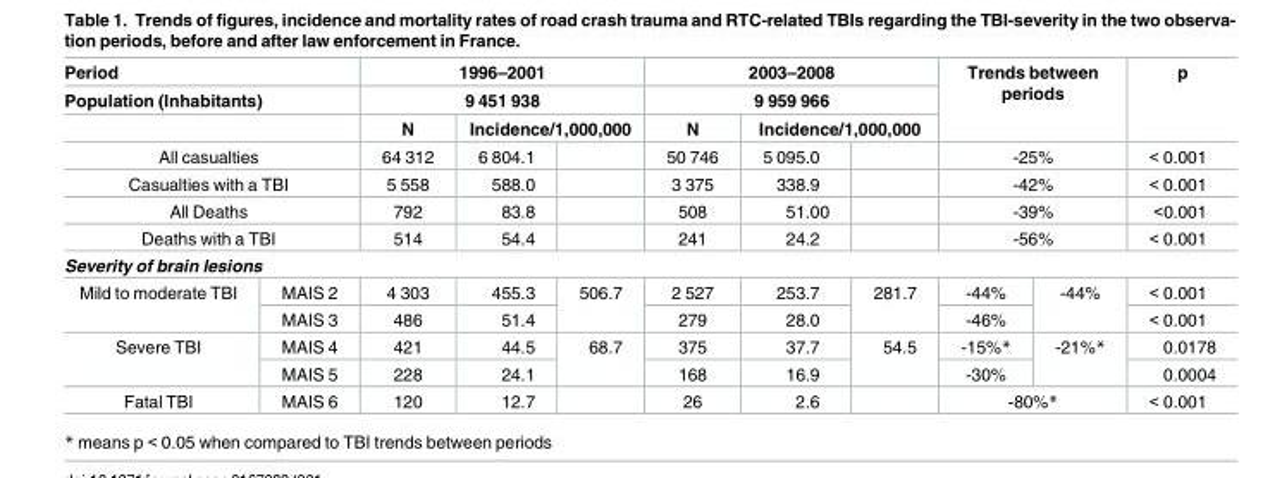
<table><thead><tr><td rowspan="2" colspan="2">Period Population (Inhabitants)</td><td rowspan="2" colspan="3">1996–2001 9 451 938</td><td rowspan="2" colspan="3">2003–2008 9 959 966</td><td rowspan="3" colspan="2">Trends between periods</td><td rowspan="3">p</td></tr><tr></tr><tr><td></td><td></td><td>N</td><td colspan="2">Incidence/1,000,000</td><td>N</td><td colspan="2">Incidence/1,000,000</td></tr></thead><tbody><tr><td colspan="2">All casualties</td><td>64 312</td><td>6 804.1</td><td></td><td>50 746</td><td>5 095.0</td><td></td><td colspan="2">-25%</td><td>&lt; 0.001</td></tr><tr><td colspan="2">Casualties with a TBI</td><td>5 558</td><td>588.0</td><td></td><td>3 375</td><td>338.9</td><td></td><td colspan="2">-42%</td><td>&lt; 0.001</td></tr><tr><td colspan="2">All Deaths</td><td>792</td><td>83.8</td><td></td><td>508</td><td>51.00</td><td></td><td colspan="2">-39%</td><td>&lt;0.001</td></tr><tr><td colspan="2">Deaths with a TBI</td><td>514</td><td>54.4</td><td></td><td>241</td><td>24.2</td><td></td><td colspan="2">-56%</td><td>&lt; 0.001</td></tr><tr><td colspan="11">Severity of brain lesions</td></tr><tr><td rowspan="2">Mild to moderate TBI</td><td>MAIS 2</td><td>4 303</td><td>455.3</td><td rowspan="2">506.7</td><td>2 527</td><td>253.7</td><td rowspan="2">281.7</td><td>-44%</td><td rowspan="2">-44%</td><td>&lt; 0.001</td></tr><tr><td>MAIS 3</td><td>486</td><td>51.4</td><td>279</td><td>28.0</td><td>-46%</td><td>&lt; 0.001</td></tr><tr><td rowspan="2">Severe TBI</td><td>MAIS 4</td><td>421</td><td>44.5</td><td rowspan="2">68.7</td><td>375</td><td>37.7</td><td rowspan="2">54.5</td><td>-15%*</td><td rowspan="2">-21%*</td><td>0.0178</td></tr><tr><td>MAIS 5</td><td>228</td><td>24.1</td><td>168</td><td>16.9</td><td>-30%</td><td>0.0004</td></tr><tr><td>Fatal TBI</td><td>MAIS 6</td><td>120</td><td>12.7</td><td></td><td>26</td><td>2.6</td><td></td><td colspan="2">-80%*</td><td>&lt; 0.001</td></tr></tbody></table>